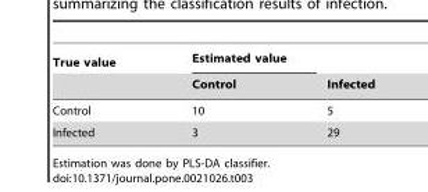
<table><thead><tr><td rowspan="2">True value</td><td rowspan="2">Estimated value Control</td><td rowspan="2">Infected</td></tr><tr></tr></thead><tbody><tr><td>Control</td><td>10</td><td>5</td></tr><tr><td>Infected</td><td>3</td><td>29</td></tr></tbody></table>